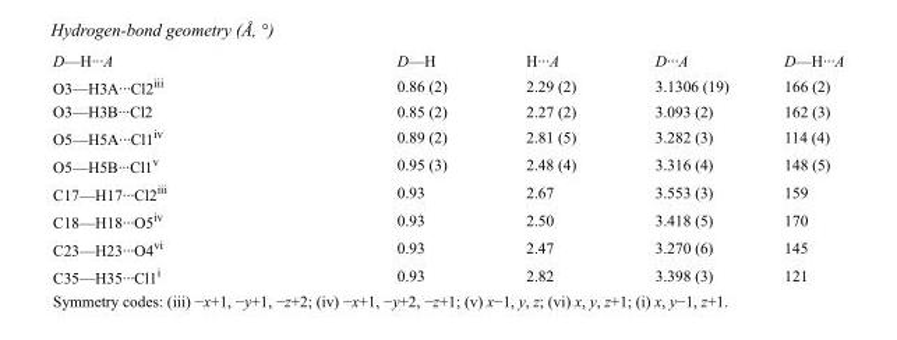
<table><tbody><tr><td>D—H···A</td><td>D—H</td><td>H···A</td><td>D···A</td><td>D—H···A</td></tr><tr><td>O3—H3A···Cl2<sup>iii</sup></td><td>0.86 (2)</td><td>2.29 (2)</td><td>3.1306 (19)</td><td>166 (2)</td></tr><tr><td>O3—H3B···Cl2</td><td>0.85 (2)</td><td>2.27 (2)</td><td>3.093 (2)</td><td>162 (3)</td></tr><tr><td>O5—H5A···Cl1<sup>iv</sup></td><td>0.89 (2)</td><td>2.81 (5)</td><td>3.282 (3)</td><td>114 (4)</td></tr><tr><td>O5—H5B···Cl1<sup>v</sup></td><td>0.95 (3)</td><td>2.48 (4)</td><td>3.316 (4)</td><td>148 (5)</td></tr><tr><td>C17—H17···Cl2<sup>iii</sup></td><td>0.93</td><td>2.67</td><td>3.553 (3)</td><td>159</td></tr><tr><td>C18—H18···O5<sup>iv</sup></td><td>0.93</td><td>2.50</td><td>3.418 (5)</td><td>170</td></tr><tr><td>C23—H23···O4<sup>vi</sup></td><td>0.93</td><td>2.47</td><td>3.270 (6)</td><td>145</td></tr><tr><td>C35—H35···Cl1<sup>i</sup></td><td>0.93</td><td>2.82</td><td>3.398 (3)</td><td>121</td></tr></tbody></table>